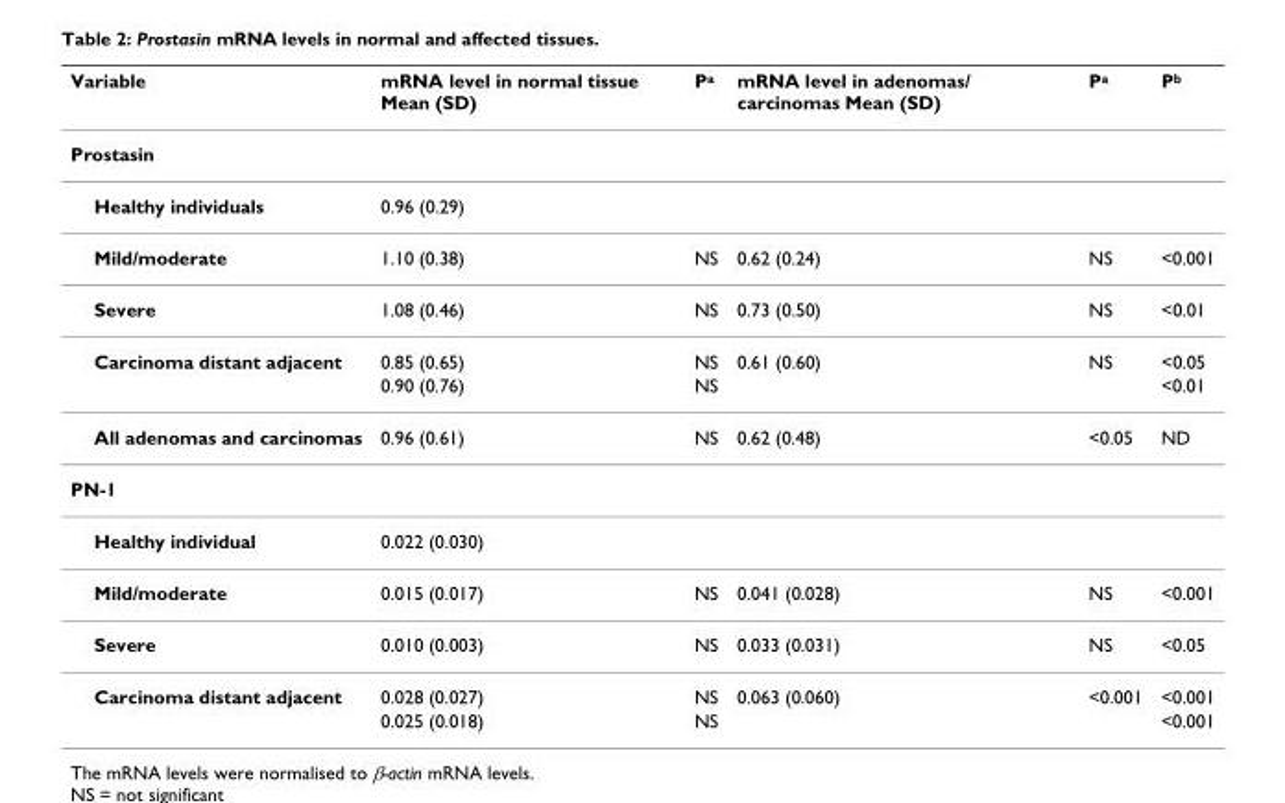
<table><thead><tr><td>Variable</td><td>mRNA level in normal tissue Mean (SD)</td><td>P<sup>a</sup></td><td>mRNA level in adenomas/ carcinomas Mean (SD)</td><td>P<sup>a</sup></td><td>P<sup>b</sup></td></tr></thead><tbody><tr><td colspan="6">Prostasin</td></tr><tr><td>Healthy individuals</td><td>0.96 (0.29)</td><td></td><td></td><td></td><td></td></tr><tr><td>Mild/moderate</td><td>1.10 (0.38)</td><td>NS</td><td>0.62 (0.24)</td><td>NS</td><td>&lt;0.001</td></tr><tr><td>Severe</td><td>1.08 (0.46)</td><td>NS</td><td>0.73 (0.50)</td><td>NS</td><td>&lt;0.01</td></tr><tr><td rowspan="2">Carcinoma distant adjacent</td><td>0.85 (0.65)</td><td>NS</td><td>0.61 (0.60)</td><td>NS</td><td>&lt;0.05</td></tr><tr><td>0.90 (0.76)</td><td>NS</td><td></td><td></td><td>&lt;0.01</td></tr><tr><td>All adenomas and carcinomas</td><td>0.96 (0.61)</td><td>NS</td><td>0.62 (0.48)</td><td>&lt;0.05</td><td>ND</td></tr><tr><td colspan="6">PN-1</td></tr><tr><td>Healthy individual</td><td>0.022 (0.030)</td><td></td><td></td><td></td><td></td></tr><tr><td>Mild/moderate</td><td>0.015 (0.017)</td><td>NS</td><td>0.041 (0.028)</td><td>NS</td><td>&lt;0.001</td></tr><tr><td>Severe</td><td>0.010 (0.003)</td><td>NS</td><td>0.033 (0.031)</td><td>NS</td><td>&lt;0.05</td></tr><tr><td rowspan="2">Carcinoma distant adjacent</td><td>0.028 (0.027)</td><td>NS</td><td>0.063 (0.060)</td><td>&lt;0.001</td><td>&lt;0.001</td></tr><tr><td>0.025 (0.018)</td><td>NS</td><td></td><td></td><td>&lt;0.001</td></tr></tbody></table>